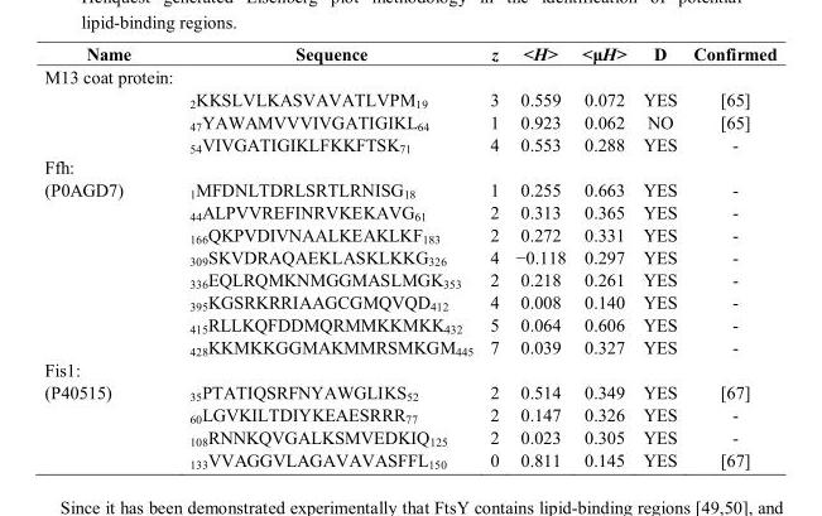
<table><thead><tr><td>Name</td><td>Sequence</td><td>z</td><td>&lt;H&gt;</td><td>&lt;μH&gt;</td><td>D</td><td>Confirmed</td></tr></thead><tbody><tr><td colspan="7">M13 coat protein:</td></tr><tr><td></td><td><sub>2</sub>KKSLVLKASVAVATLVPM<sub>19</sub></td><td>3</td><td>0.559</td><td>0.072</td><td>YES</td><td>[65]</td></tr><tr><td></td><td><sub>47</sub>YAWAMVVVIVGATIGIKL<sub>64</sub></td><td>1</td><td>0.923</td><td>0.062</td><td>NO</td><td>[65]</td></tr><tr><td></td><td><sub>54</sub>VIVGATIGIKLFKKFTSK<sub>71</sub></td><td>4</td><td>0.553</td><td>0.288</td><td>YES</td><td>-</td></tr><tr><td colspan="7">Ffh:</td></tr><tr><td rowspan="8">(P0AGD7)</td><td><sub>1</sub>MFDNLTDRLSRTLRNISG<sub>18</sub></td><td>1</td><td>0.255</td><td>0.663</td><td>YES</td><td>-</td></tr><tr><td><sub>44</sub>ALPVVREFINRVKEKAVG<sub>61</sub></td><td>2</td><td>0.313</td><td>0.365</td><td>YES</td><td>-</td></tr><tr><td><sub>166</sub>QKPVDIVNAALKEAKLKF<sub>183</sub></td><td>2</td><td>0.272</td><td>0.331</td><td>YES</td><td>-</td></tr><tr><td><sub>309</sub>SKVDRAQAEKLASKLKKG<sub>326</sub></td><td>4</td><td>−0.118</td><td>0.297</td><td>YES</td><td>-</td></tr><tr><td><sub>336</sub>EQLRQMKNMGGMASLMGK<sub>353</sub></td><td>2</td><td>0.218</td><td>0.261</td><td>YES</td><td>-</td></tr><tr><td><sub>395</sub>KGSRKRRIAAGCGMQVQD<sub>412</sub></td><td>4</td><td>0.008</td><td>0.140</td><td>YES</td><td>-</td></tr><tr><td><sub>415</sub>RLLKQFDDMQRMMKKMKK<sub>432</sub></td><td>5</td><td>0.064</td><td>0.606</td><td>YES</td><td>-</td></tr><tr><td><sub>428</sub>KKMKKGGMAKMMRSMKGM<sub>445</sub></td><td>7</td><td>0.039</td><td>0.327</td><td>YES</td><td>-</td></tr><tr><td colspan="7">Fis1:</td></tr><tr><td rowspan="4">(P40515)</td><td><sub>35</sub>PTATIQSRFNYAWGLIKS<sub>52</sub></td><td>2</td><td>0.514</td><td>0.349</td><td>YES</td><td>[67]</td></tr><tr><td><sub>60</sub>LGVKILTDIYKEAESRRR<sub>77</sub></td><td>2</td><td>0.147</td><td>0.326</td><td>YES</td><td>-</td></tr><tr><td><sub>108</sub>RNNKQVGALKSMVEDKIQ<sub>125</sub></td><td>2</td><td>0.023</td><td>0.305</td><td>YES</td><td>-</td></tr><tr><td><sub>133</sub>VVAGGVLAGAVAVASFFL<sub>150</sub></td><td>0</td><td>0.811</td><td>0.145</td><td>YES</td><td>[67]</td></tr></tbody></table>